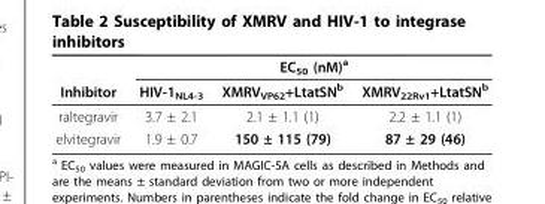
<table><thead><tr><td rowspan="2">Inhibitor</td><td colspan="3">EC<sub>50</sub> (nM)<sup>a</sup></td></tr><tr><td>HIV-1<sub>NL4-3</sub></td><td>XMRV<sub>VP62</sub>+LtatSN<sup>b</sup></td><td>XMRV<sub>22Rv1</sub>+LtatSN<sup>b</sup></td></tr></thead><tbody><tr><td>raltegravir</td><td>3.7 ± 2.1</td><td>2.1 ± 1.1 (1)</td><td>2.2 ± 1.1 (1)</td></tr><tr><td>elvitegravir</td><td>1.9 ± 0.7</td><td>150 ± 115 (79)</td><td>87 ± 29 (46)</td></tr></tbody></table>